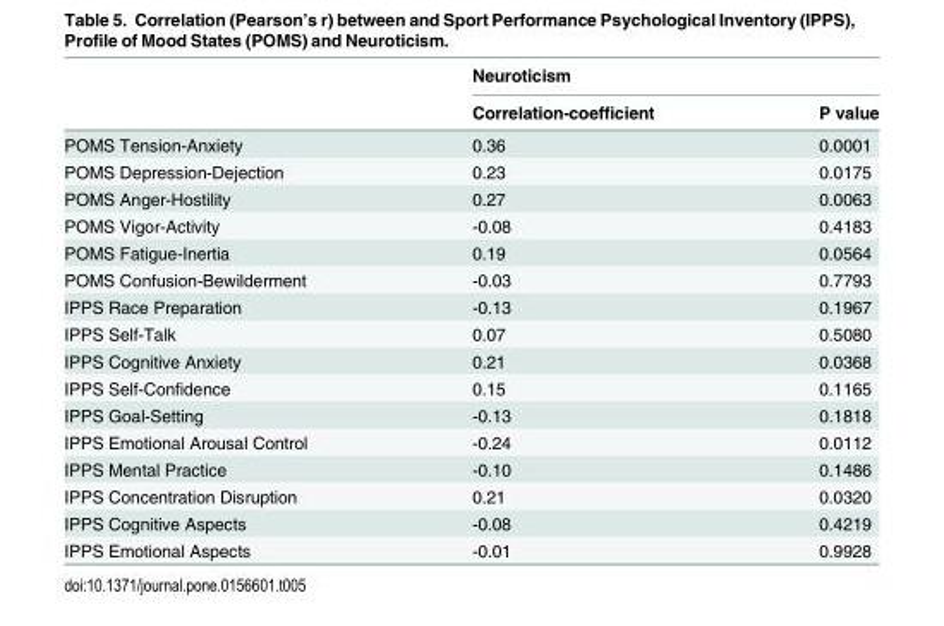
<table><thead><tr><td rowspan="2"></td><td colspan="2">Neuroticism</td></tr><tr><td>Correlation-coefficient</td><td>P value</td></tr></thead><tbody><tr><td>POMS Tension-Anxiety</td><td>0.36</td><td>0.0001</td></tr><tr><td>POMS Depression-Dejection</td><td>0.23</td><td>0.0175</td></tr><tr><td>POMS Anger-Hostility</td><td>0.27</td><td>0.0063</td></tr><tr><td>POMS Vigor-Activity</td><td>-0.08</td><td>0.4183</td></tr><tr><td>POMS Fatigue-Inertia</td><td>0.19</td><td>0.0564</td></tr><tr><td>POMS Confusion-Bewilderment</td><td>-0.03</td><td>0.7793</td></tr><tr><td>IPPS Race Preparation</td><td>-0.13</td><td>0.1967</td></tr><tr><td>IPPS Self-Talk</td><td>0.07</td><td>0.5080</td></tr><tr><td>IPPS Cognitive Anxiety</td><td>0.21</td><td>0.0368</td></tr><tr><td>IPPS Self-Confidence</td><td>0.15</td><td>0.1165</td></tr><tr><td>IPPS Goal-Setting</td><td>-0.13</td><td>0.1818</td></tr><tr><td>IPPS Emotional Arousal Control</td><td>-0.24</td><td>0.0112</td></tr><tr><td>IPPS Mental Practice</td><td>-0.10</td><td>0.1486</td></tr><tr><td>IPPS Concentration Disruption</td><td>0.21</td><td>0.0320</td></tr><tr><td>IPPS Cognitive Aspects</td><td>-0.08</td><td>0.4219</td></tr><tr><td>IPPS Emotional Aspects</td><td>-0.01</td><td>0.9928</td></tr></tbody></table>